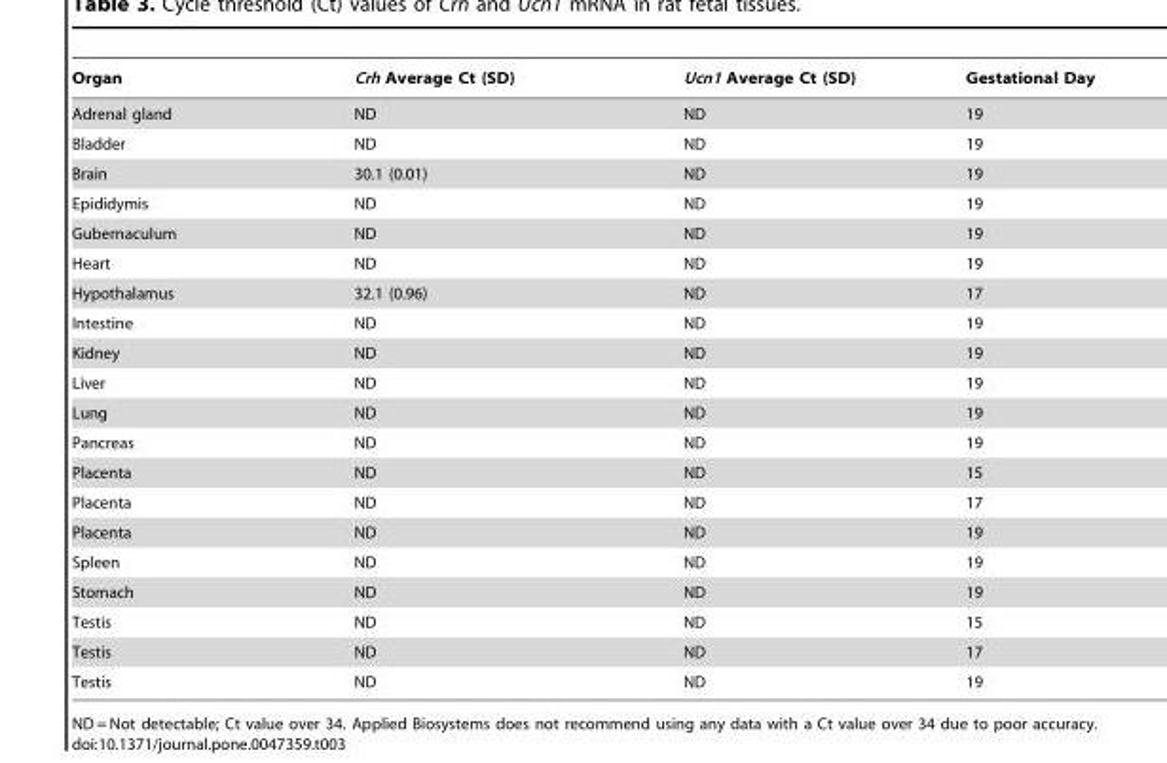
<table><thead><tr><td>Organ</td><td>Crh Average Ct (SD)</td><td>Ucn1 Average Ct (SD)</td><td>Gestational Day</td></tr></thead><tbody><tr><td>Adrenal gland</td><td>ND</td><td>ND</td><td>19</td></tr><tr><td>Bladder</td><td>ND</td><td>ND</td><td>19</td></tr><tr><td>Brain</td><td>30.1 (0.01)</td><td>ND</td><td>19</td></tr><tr><td>Epididymis</td><td>ND</td><td>ND</td><td>19</td></tr><tr><td>Gubernaculum</td><td>ND</td><td>ND</td><td>19</td></tr><tr><td>Heart</td><td>ND</td><td>ND</td><td>19</td></tr><tr><td>Hypothalamus</td><td>32.1 (0.96)</td><td>ND</td><td>17</td></tr><tr><td>Intestine</td><td>ND</td><td>ND</td><td>19</td></tr><tr><td>Kidney</td><td>ND</td><td>ND</td><td>19</td></tr><tr><td>Liver</td><td>ND</td><td>ND</td><td>19</td></tr><tr><td>Lung</td><td>ND</td><td>ND</td><td>19</td></tr><tr><td>Pancreas</td><td>ND</td><td>ND</td><td>19</td></tr><tr><td>Placenta</td><td>ND</td><td>ND</td><td>15</td></tr><tr><td>Placenta</td><td>ND</td><td>ND</td><td>17</td></tr><tr><td>Placenta</td><td>ND</td><td>ND</td><td>19</td></tr><tr><td>Spleen</td><td>ND</td><td>ND</td><td>19</td></tr><tr><td>Stomach</td><td>ND</td><td>ND</td><td>19</td></tr><tr><td>Testis</td><td>ND</td><td>ND</td><td>15</td></tr><tr><td>Testis</td><td>ND</td><td>ND</td><td>17</td></tr><tr><td>Testis</td><td>ND</td><td>ND</td><td>19</td></tr></tbody></table>